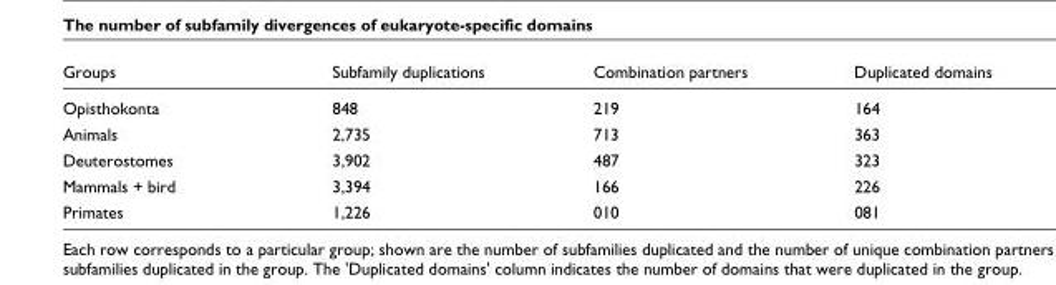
<table><thead><tr><td>Groups</td><td>Subfamily duplications</td><td>Combination partners</td><td>Duplicated domains</td></tr></thead><tbody><tr><td>Opisthokonta</td><td>848</td><td>219</td><td>164</td></tr><tr><td>Animals</td><td>2,735</td><td>713</td><td>363</td></tr><tr><td>Deuterostomes</td><td>3,902</td><td>487</td><td>323</td></tr><tr><td>Mammals + bird</td><td>3,394</td><td>166</td><td>226</td></tr><tr><td>Primates</td><td>1,226</td><td>010</td><td>081</td></tr></tbody></table>